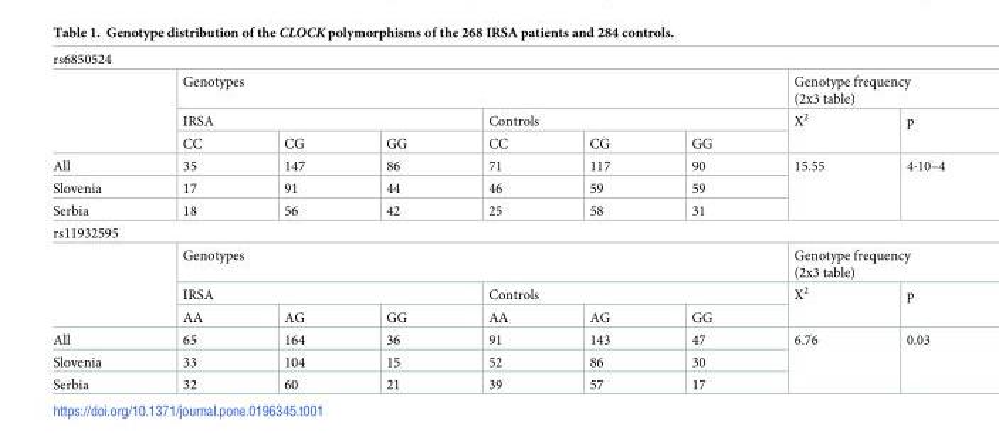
<table><tbody><tr><td colspan="9">rs6850524</td></tr><tr><td rowspan="3"></td><td colspan="6">Genotypes</td><td colspan="2">Genotype frequency (2x3 table)</td></tr><tr><td colspan="3">IRSA</td><td colspan="3">Controls</td><td rowspan="2">X<sup>2</sup></td><td rowspan="2">p</td></tr><tr><td>CC</td><td>CG</td><td>GG</td><td>CC</td><td>CG</td><td>GG</td></tr><tr><td>All</td><td>35</td><td>147</td><td>86</td><td>71</td><td>117</td><td>90</td><td rowspan="3">15.55</td><td rowspan="3">4∙10–4</td></tr><tr><td>Slovenia</td><td>17</td><td>91</td><td>44</td><td>46</td><td>59</td><td>59</td></tr><tr><td>Serbia</td><td>18</td><td>56</td><td>42</td><td>25</td><td>58</td><td>31</td></tr><tr><td colspan="9">rs11932595</td></tr><tr><td rowspan="3"></td><td colspan="6">Genotypes</td><td colspan="2">Genotype frequency (2x3 table)</td></tr><tr><td colspan="3">IRSA</td><td colspan="3">Controls</td><td rowspan="2">X<sup>2</sup></td><td rowspan="2">p</td></tr><tr><td>AA</td><td>AG</td><td>GG</td><td>AA</td><td>AG</td><td>GG</td></tr><tr><td>All</td><td>65</td><td>164</td><td>36</td><td>91</td><td>143</td><td>47</td><td rowspan="3">6.76</td><td rowspan="3">0.03</td></tr><tr><td>Slovenia</td><td>33</td><td>104</td><td>15</td><td>52</td><td>86</td><td>30</td></tr><tr><td>Serbia</td><td>32</td><td>60</td><td>21</td><td>39</td><td>57</td><td>17</td></tr></tbody></table>